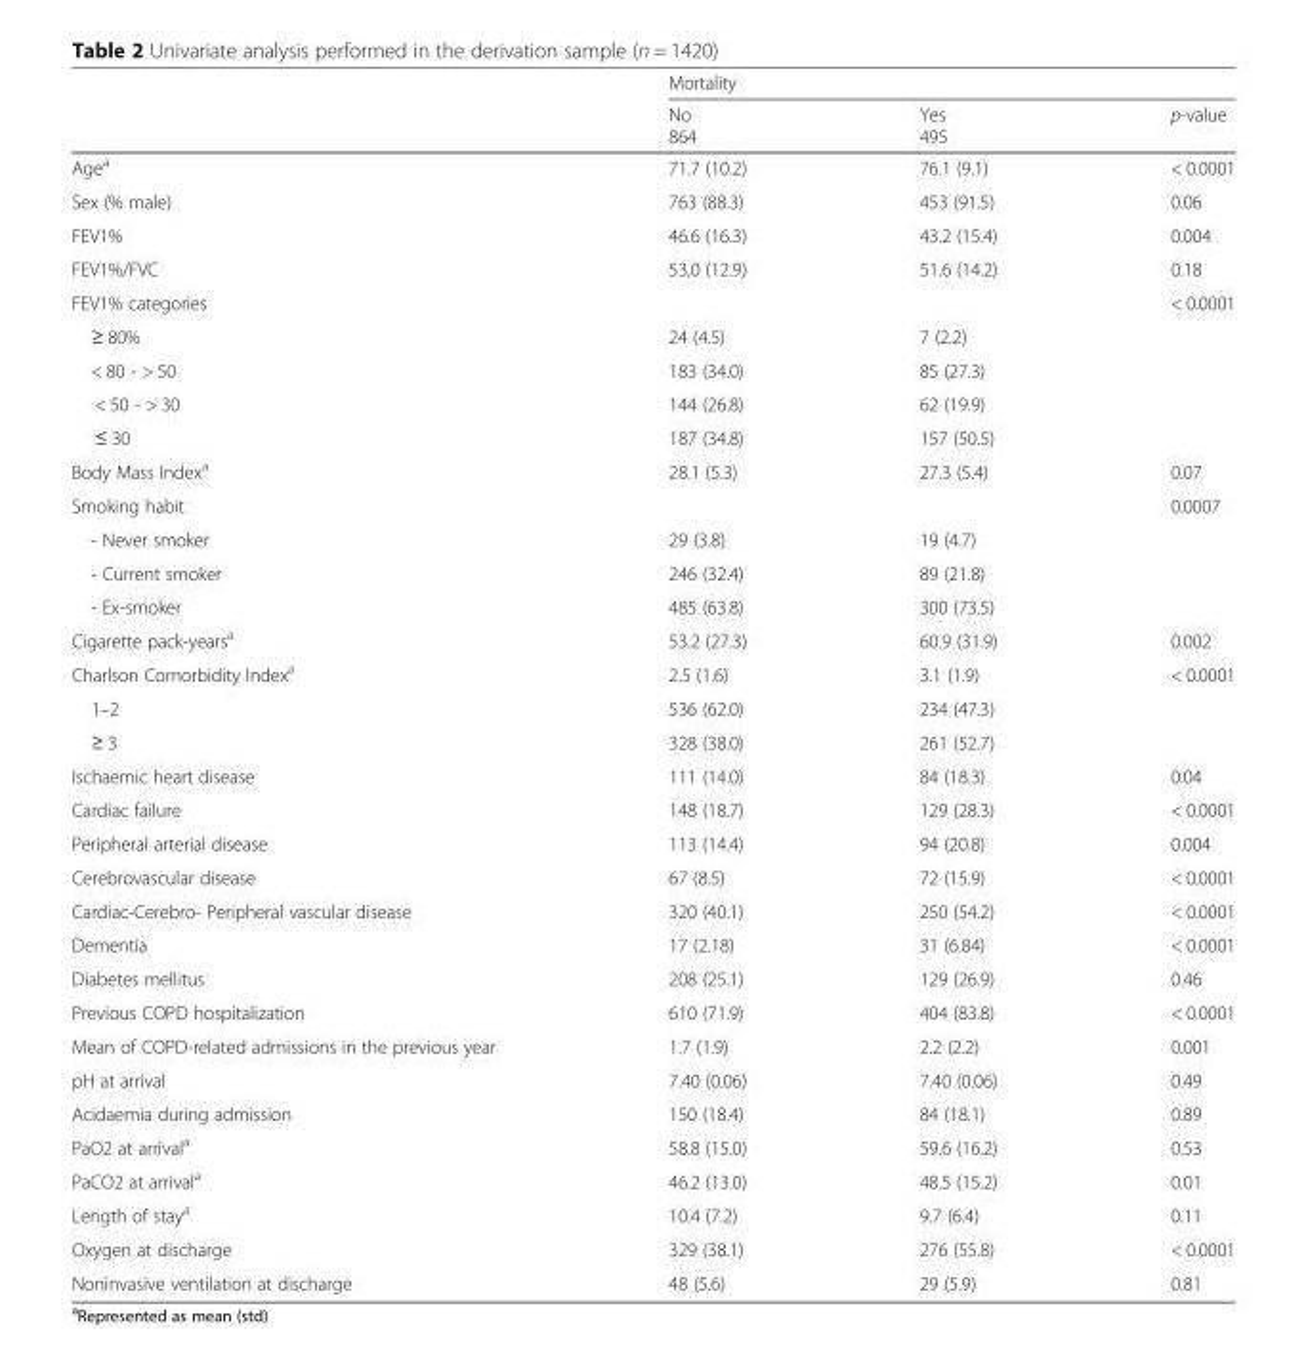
<table><thead><tr><td rowspan="2"></td><td colspan="3">Mortality</td></tr><tr><td>No 864</td><td>Yes 495</td><td>p-value</td></tr></thead><tbody><tr><td>Age<sup>a</sup></td><td>71.7 (10.2)</td><td>76.1 (9.1)</td><td>&lt; 0.0001</td></tr><tr><td>Sex (% male)</td><td>763 (88.3)</td><td>453 (91.5)</td><td>0.06</td></tr><tr><td>FEV1%</td><td>46.6 (16.3)</td><td>43.2 (15.4)</td><td>0.004</td></tr><tr><td>FEV1%/FVC</td><td>53,0 (12.9)</td><td>51.6 (14.2)</td><td>0.18</td></tr><tr><td colspan="3">FEV1% categories</td><td>&lt; 0.0001</td></tr><tr><td>≥ 80%</td><td>24 (4.5)</td><td>7 (2.2)</td><td></td></tr><tr><td>&lt; 80 - &gt; 50</td><td>183 (34.0)</td><td>85 (27.3)</td><td></td></tr><tr><td>&lt; 50 - &gt; 30</td><td>144 (26.8)</td><td>62 (19.9)</td><td></td></tr><tr><td>≤ 30</td><td>187 (34.8)</td><td>157 (50.5)</td><td></td></tr><tr><td>Body Mass Index<sup>a</sup></td><td>28.1 (5.3)</td><td>27.3 (5.4)</td><td>0.07</td></tr><tr><td colspan="3">Smoking habit</td><td>0.0007</td></tr><tr><td>- Never smoker</td><td>29 (3.8)</td><td>19 (4.7)</td><td></td></tr><tr><td>- Current smoker</td><td>246 (32.4)</td><td>89 (21.8)</td><td></td></tr><tr><td>- Ex-smoker</td><td>485 (63.8)</td><td>300 (73.5)</td><td></td></tr><tr><td>Cigarette pack-years<sup>a</sup></td><td>53.2 (27.3)</td><td>60.9 (31.9)</td><td>0.002</td></tr><tr><td>Charlson Comorbidity Index<sup>a</sup></td><td>2.5 (1.6)</td><td>3.1 (1.9)</td><td>&lt; 0.0001</td></tr><tr><td>1–2</td><td>536 (62.0)</td><td>234 (47.3)</td><td></td></tr><tr><td>≥ 3</td><td>328 (38.0)</td><td>261 (52.7)</td><td></td></tr><tr><td>Ischaemic heart disease</td><td>111 (14.0)</td><td>84 (18.3)</td><td>0.04</td></tr><tr><td>Cardiac failure</td><td>148 (18.7)</td><td>129 (28.3)</td><td>&lt; 0.0001</td></tr><tr><td>Peripheral arterial disease</td><td>113 (14.4)</td><td>94 (20.8)</td><td>0.004</td></tr><tr><td>Cerebrovascular disease</td><td>67 (8.5)</td><td>72 (15.9)</td><td>&lt; 0.0001</td></tr><tr><td>Cardiac-Cerebro- Peripheral vascular disease</td><td>320 (40.1)</td><td>250 (54.2)</td><td>&lt; 0.0001</td></tr><tr><td>Dementia</td><td>17 (2.18)</td><td>31 (6.84)</td><td>&lt; 0.0001</td></tr><tr><td>Diabetes mellitus</td><td>208 (25.1)</td><td>129 (26.9)</td><td>0.46</td></tr><tr><td>Previous COPD hospitalization</td><td>610 (71.9)</td><td>404 (83.8)</td><td>&lt; 0.0001</td></tr><tr><td>Mean of COPD-related admissions in the previous year</td><td>1.7 (1.9)</td><td>2.2 (2.2)</td><td>0.001</td></tr><tr><td>pH at arrival</td><td>7.40 (0.06)</td><td>7.40 (0.06)</td><td>0.49</td></tr><tr><td>Acidaemia during admission</td><td>150 (18.4)</td><td>84 (18.1)</td><td>0.89</td></tr><tr><td>PaO2 at arrival<sup>a</sup></td><td>58.8 (15.0)</td><td>59.6 (16.2)</td><td>0.53</td></tr><tr><td>PaCO2 at arrival<sup>a</sup></td><td>46.2 (13.0)</td><td>48.5 (15.2)</td><td>0.01</td></tr><tr><td>Length of stay<sup>a</sup></td><td>10.4 (7.2)</td><td>9.7 (6.4)</td><td>0.11</td></tr><tr><td>Oxygen at discharge</td><td>329 (38.1)</td><td>276 (55.8)</td><td>&lt; 0.0001</td></tr><tr><td>Noninvasive ventilation at discharge</td><td>48 (5.6)</td><td>29 (5.9)</td><td>0.81</td></tr></tbody></table>